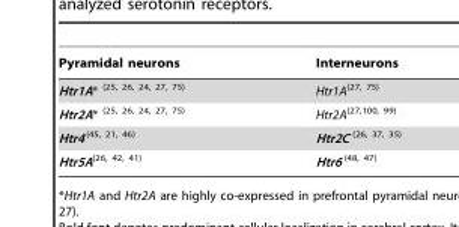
<table><thead><tr><td>Pyramidal neurons</td><td>Interneurons</td></tr></thead><tbody><tr><td>Htr1A* <sup>(25, 26, 24, 27, 75)</sup></td><td>Htr1A<sup>(27, 75)</sup></td></tr><tr><td>Htr2A* <sup>(25, 26, 24, 27, 75)</sup></td><td>Htr2A<sup>(27,100, 99)</sup></td></tr><tr><td>Htr4 <sup>(45, 21, 46)</sup></td><td>Htr2C <sup>(26, 37, 35)</sup></td></tr><tr><td>Htr5A<sup>(26, 42, 41)</sup></td><td>Htr6 <sup>(48, 47)</sup></td></tr></tbody></table>